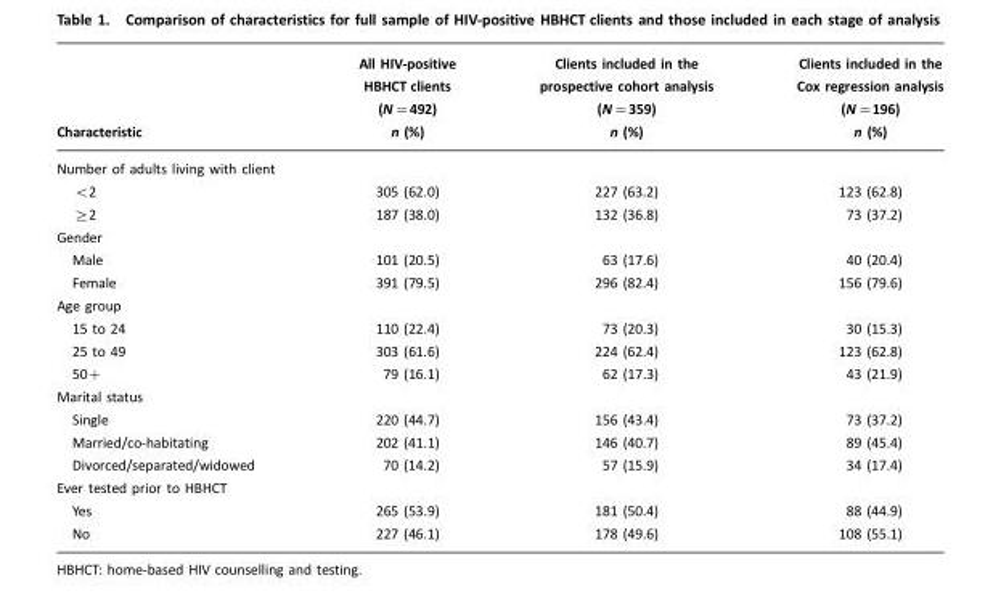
<table><thead><tr><td>Characteristic</td><td>All HIV-positive HBHCT clients (N=492) n (%)</td><td>Clients included in the prospective cohort analysis (N=359) n (%)</td><td>Clients included in the Cox regression analysis (N=196) n (%)</td></tr></thead><tbody><tr><td colspan="4">Number of adults living with client</td></tr><tr><td>&lt;2</td><td>305 (62.0)</td><td>227 (63.2)</td><td>123 (62.8)</td></tr><tr><td>≥2</td><td>187 (38.0)</td><td>132 (36.8)</td><td>73 (37.2)</td></tr><tr><td colspan="4">Gender</td></tr><tr><td>Male</td><td>101 (20.5)</td><td>63 (17.6)</td><td>40 (20.4)</td></tr><tr><td>Female</td><td>391 (79.5)</td><td>296 (82.4)</td><td>156 (79.6)</td></tr><tr><td colspan="4">Age group</td></tr><tr><td>15 to 24</td><td>110 (22.4)</td><td>73 (20.3)</td><td>30 (15.3)</td></tr><tr><td>25 to 49</td><td>303 (61.6)</td><td>224 (62.4)</td><td>123 (62.8)</td></tr><tr><td>50+</td><td>79 (16.1)</td><td>62 (17.3)</td><td>43 (21.9)</td></tr><tr><td colspan="4">Marital status</td></tr><tr><td>Single</td><td>220 (44.7)</td><td>156 (43.4)</td><td>73 (37.2)</td></tr><tr><td>Married/co-habitating</td><td>202 (41.1)</td><td>146 (40.7)</td><td>89 (45.4)</td></tr><tr><td>Divorced/separated/widowed</td><td>70 (14.2)</td><td>57 (15.9)</td><td>34 (17.4)</td></tr><tr><td colspan="4">Ever tested prior to HBHCT</td></tr><tr><td>Yes</td><td>265 (53.9)</td><td>181 (50.4)</td><td>88 (44.9)</td></tr><tr><td>No</td><td>227 (46.1)</td><td>178 (49.6)</td><td>108 (55.1)</td></tr></tbody></table>